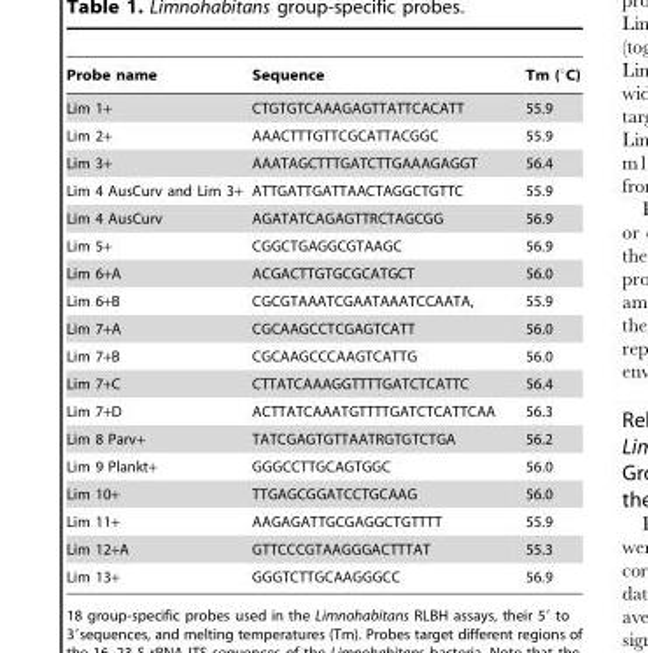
<table><thead><tr><td>Probe name</td><td>Sequence</td><td>Tm (°C)</td></tr></thead><tbody><tr><td>Lim 1+</td><td>CTGTGTCAAAGAGTTATTCACATT</td><td>55.9</td></tr><tr><td>Lim 2+</td><td>AAACTTTGTTCGCATTACGGC</td><td>55.9</td></tr><tr><td>Lim 3+</td><td>AAATAGCTTTGATCTTGAAAGAGGT</td><td>56.4</td></tr><tr><td>Lim 4 AusCurv and Lim 3+</td><td>ATTGATTGATTAACTAGGCTGTTC</td><td>55.9</td></tr><tr><td>Lim 4 AusCurv</td><td>AGATATCAGAGTTRCTAGCGG</td><td>56.9</td></tr><tr><td>Lim 5+</td><td>CGGCTGAGGCGTAAGC</td><td>56.9</td></tr><tr><td>Lim 6+A</td><td>ACGACTTGTGCGCATGCT</td><td>56.0</td></tr><tr><td>Lim 6+B</td><td>CGCGTAAATCGAATAAATCCAATA,</td><td>55.9</td></tr><tr><td>Lim 7+A</td><td>CGCAAGCCTCGAGTCATT</td><td>56.0</td></tr><tr><td>Lim 7+B</td><td>CGCAAGCCCAAGTCATTG</td><td>56.0</td></tr><tr><td>Lim 7+C</td><td>CTTATCAAAGGTTTTGATCTCATTC</td><td>56.4</td></tr><tr><td>Lim 7+D</td><td>ACTTATCAAATGTTTTGATCTCATTCAA</td><td>56.3</td></tr><tr><td>Lim 8 Parv+</td><td>TATCGAGTGTTAATRGTGTCTGA</td><td>56.2</td></tr><tr><td>Lim 9 Plankt+</td><td>GGGCCTTGCAGTGGC</td><td>56.0</td></tr><tr><td>Lim 10+</td><td>TTGAGCGGATCCTGCAAG</td><td>56.0</td></tr><tr><td>Lim 11+</td><td>AAGAGATTGCGAGGCTGTTTT</td><td>55.9</td></tr><tr><td>Lim 12+A</td><td>GTTCCCGTAAGGGACTTTAT</td><td>55.3</td></tr><tr><td>Lim 13+</td><td>GGGTCTTGCAAGGGCC</td><td>56.9</td></tr></tbody></table>